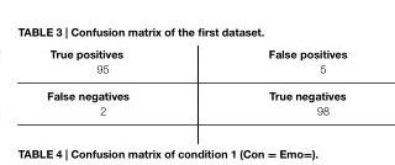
<table><tbody><tr><td>True positives</td><td>False positives</td></tr><tr><td>95</td><td>5</td></tr><tr><td>False negatives</td><td>True negatives</td></tr><tr><td>2</td><td>98</td></tr></tbody></table>